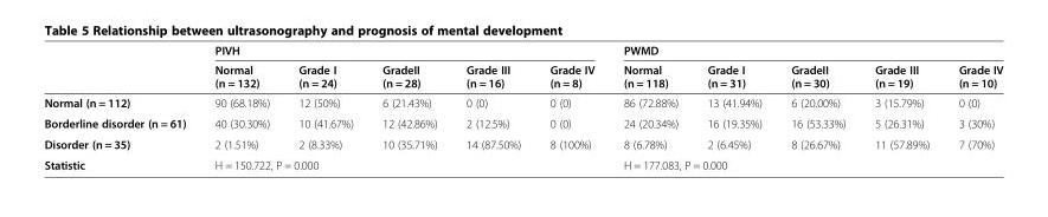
<table><thead><tr><td rowspan="2"></td><td colspan="5">PIVH</td><td colspan="5">PWMD</td></tr><tr><td>Normal (n = 132)</td><td>Grade I (n = 24)</td><td>GradeII (n = 28)</td><td>Grade III (n = 16)</td><td>Grade IV (n = 8)</td><td>Normal (n = 118)</td><td>Grade I (n = 31)</td><td>GradeII (n = 30)</td><td>Grade III (n = 19)</td><td>Grade IV (n = 10)</td></tr></thead><tbody><tr><td>Normal (n = 112)</td><td>90 (68.18%)</td><td>12 (50%)</td><td>6 (21.43%)</td><td>0 (0)</td><td>0 (0)</td><td>86 (72.88%)</td><td>13 (41.94%)</td><td>6 (20.00%)</td><td>3 (15.79%)</td><td>0 (0)</td></tr><tr><td>Borderline disorder (n = 61)</td><td>40 (30.30%)</td><td>10 (41.67%)</td><td>12 (42.86%)</td><td>2 (12.5%)</td><td>0 (0)</td><td>24 (20.34%)</td><td>16 (19.35%)</td><td>16 (53.33%)</td><td>5 (26.31%)</td><td>3 (30%)</td></tr><tr><td>Disorder (n = 35)</td><td>2 (1.51%)</td><td>2 (8.33%)</td><td>10 (35.71%)</td><td>14 (87.50%)</td><td>8 (100%)</td><td>8 (6.78%)</td><td>2 (6.45%)</td><td>8 (26.67%)</td><td>11 (57.89%)</td><td>7 (70%)</td></tr><tr><td>Statistic</td><td colspan="5">H = 150.722, P = 0.000</td><td colspan="5">H = 177.083, P = 0.000</td></tr></tbody></table>